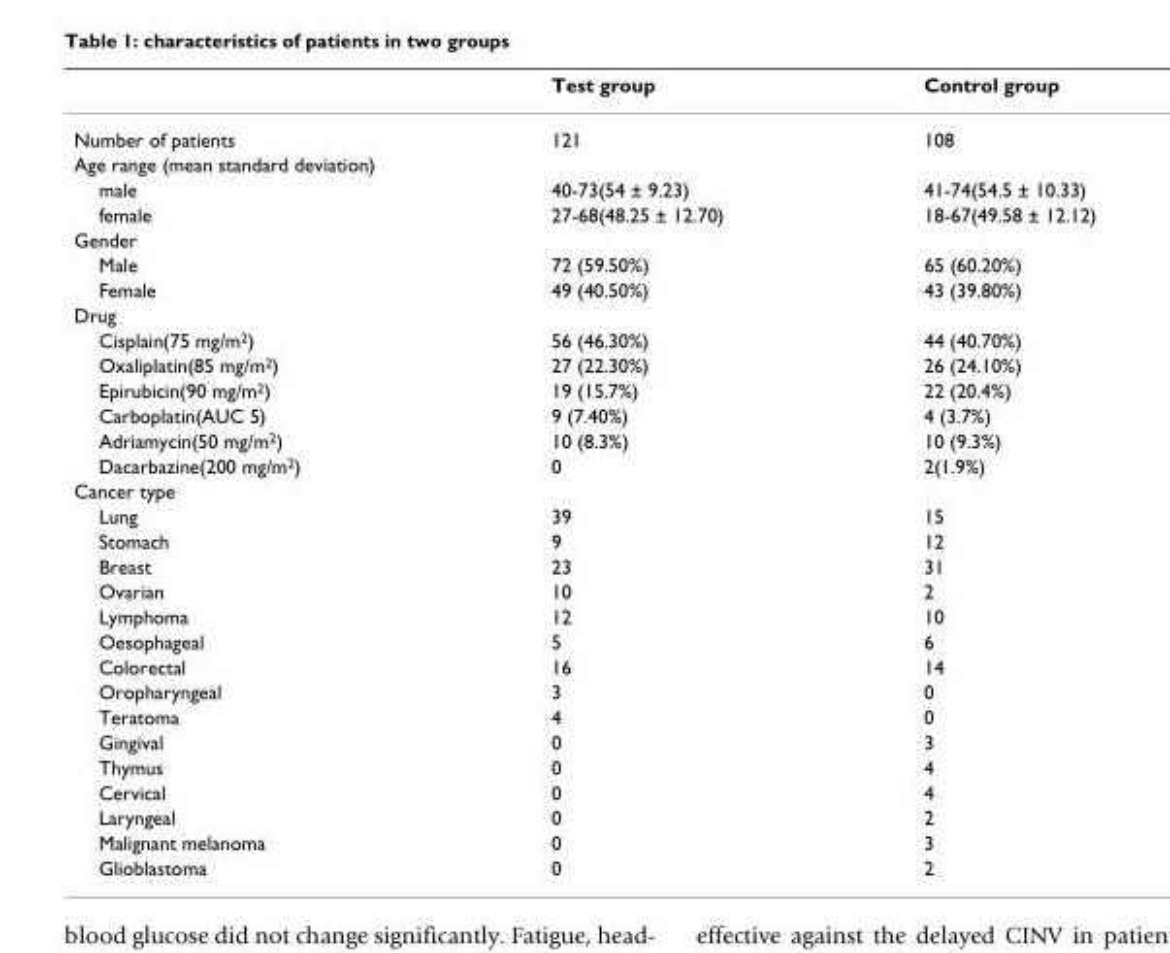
<table><thead><tr><td></td><td>Test group</td><td>Control group</td></tr></thead><tbody><tr><td>Number of patients</td><td>121</td><td>108</td></tr><tr><td colspan="3">Age range (mean standard deviation)</td></tr><tr><td>male</td><td>40-73(54 ± 9.23)</td><td>41-74(54.5 ± 10.33)</td></tr><tr><td>female</td><td>27-68(48.25 ± 12.70)</td><td>18-67(49.58 ± 12.12)</td></tr><tr><td colspan="3">Gender</td></tr><tr><td>Male</td><td>72 (59.50%)</td><td>65 (60.20%)</td></tr><tr><td>Female</td><td>49 (40.50%)</td><td>43 (39.80%)</td></tr><tr><td colspan="3">Drug</td></tr><tr><td>Cisplain(75 mg/m<sup>2</sup>)</td><td>56 (46.30%)</td><td>44 (40.70%)</td></tr><tr><td>Oxaliplatin(85 mg/m<sup>2</sup>)</td><td>27 (22.30%)</td><td>26 (24.10%)</td></tr><tr><td>Epirubicin(90 mg/m<sup>2</sup>)</td><td>19 (15.7%)</td><td>22 (20.4%)</td></tr><tr><td>Carboplatin(AUC 5)</td><td>9 (7.40%)</td><td>4 (3.7%)</td></tr><tr><td>Adriamycin(50 mg/m<sup>2</sup>)</td><td>10 (8.3%)</td><td>10 (9.3%)</td></tr><tr><td>Dacarbazine(200 mg/m<sup>2</sup>)</td><td>0</td><td>2(1.9%)</td></tr><tr><td colspan="3">Cancer type</td></tr><tr><td>Lung</td><td>39</td><td>15</td></tr><tr><td>Stomach</td><td>9</td><td>12</td></tr><tr><td>Breast</td><td>23</td><td>31</td></tr><tr><td>Ovarian</td><td>10</td><td>2</td></tr><tr><td>Lymphoma</td><td>12</td><td>10</td></tr><tr><td>Oesophageal</td><td>5</td><td>6</td></tr><tr><td>Colorectal</td><td>16</td><td>14</td></tr><tr><td>Oropharyngeal</td><td>3</td><td>0</td></tr><tr><td>Teratoma</td><td>4</td><td>0</td></tr><tr><td>Gingival</td><td>0</td><td>3</td></tr><tr><td>Thymus</td><td>0</td><td>4</td></tr><tr><td>Cervical</td><td>0</td><td>4</td></tr><tr><td>Laryngeal</td><td>0</td><td>2</td></tr><tr><td>Malignant melanoma</td><td>0</td><td>3</td></tr><tr><td>Glioblastoma</td><td>0</td><td>2</td></tr></tbody></table>